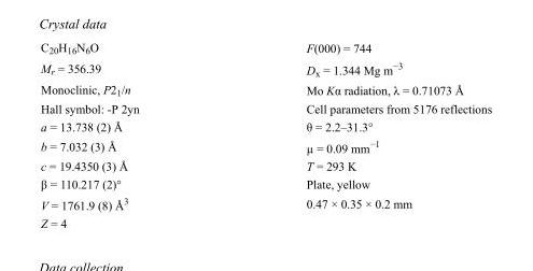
<table><tbody><tr><td>C<sub>20</sub>H<sub>16</sub>N<sub>6</sub>O</td><td>F(000) = 744</td></tr><tr><td>M<sub>r</sub> = 356.39</td><td>D<sub>x</sub> = 1.344 Mg m<sup>−3</sup></td></tr><tr><td>Monoclinic, P2<sub>1</sub>/n</td><td>Mo Kα radiation, λ = 0.71073 Å</td></tr><tr><td>Hall symbol: -P 2yn</td><td>Cell parameters from 5176 reflections</td></tr><tr><td>a = 13.738 (2) Å</td><td>θ = 2.2–31.3°</td></tr><tr><td>b = 7.032 (3) Å</td><td>µ = 0.09 mm<sup>−1</sup></td></tr><tr><td>c = 19.4350 (3) Å</td><td>T = 293 K</td></tr><tr><td>β = 110.217 (2)°</td><td>Plate, yellow</td></tr><tr><td>V = 1761.9 (8) Å<sup>3</sup></td><td>0.47 × 0.35 × 0.2 mm</td></tr><tr><td>Z = 4</td><td></td></tr></tbody></table>